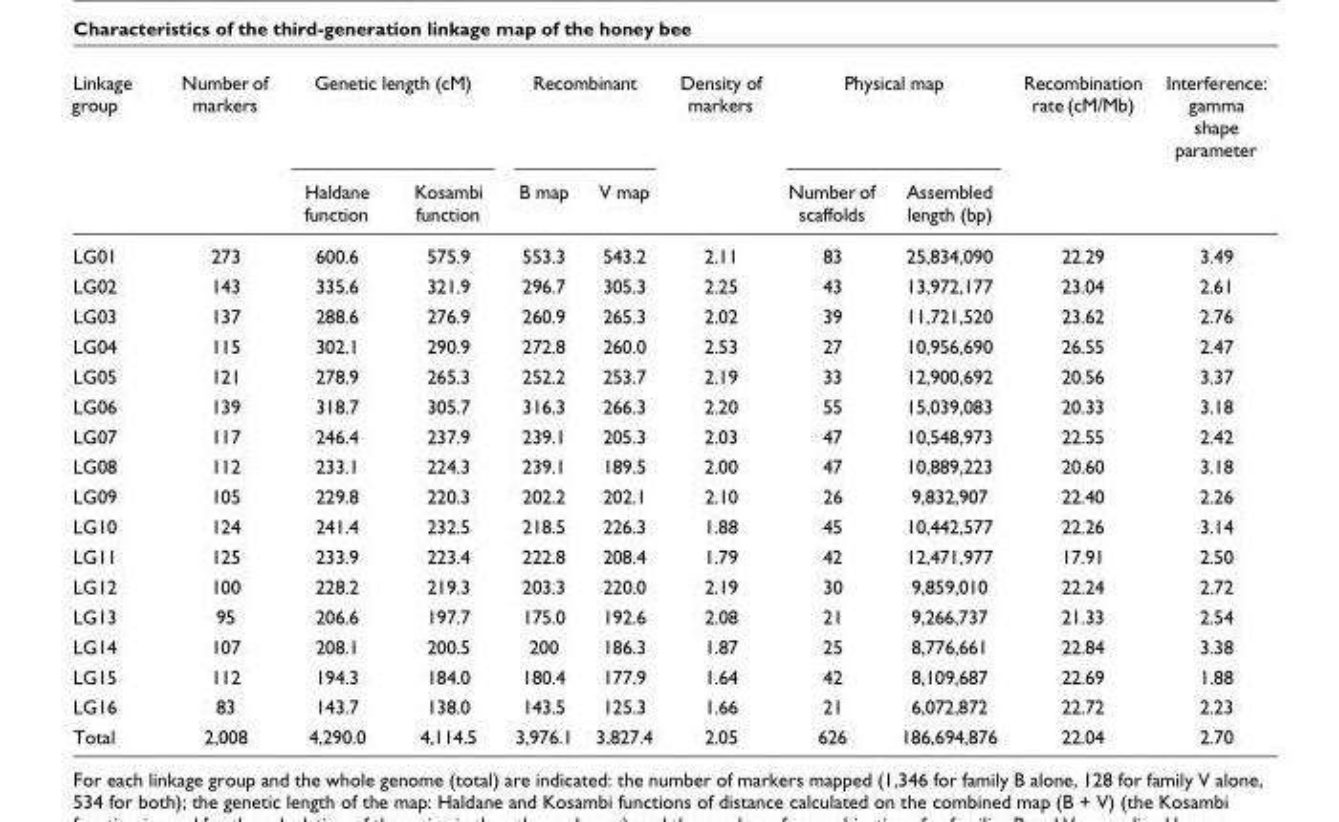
<table><thead><tr><td rowspan="2">Linkage group</td><td rowspan="2">Number of markers</td><td colspan="2">Genetic length (cM)</td><td colspan="2">Recombinant</td><td rowspan="2">Density of markers</td><td colspan="2">Physical map</td><td rowspan="2">Recombination rate (cM/Mb)</td><td rowspan="2">Interference: gamma shape parameter</td></tr><tr><td>Haldane function</td><td>Kosambi function</td><td>B map</td><td>V map</td><td>Number of scaffolds</td><td>Assembled length (bp)</td></tr></thead><tbody><tr><td>LG01</td><td>273</td><td>600.6</td><td>575.9</td><td>553.3</td><td>543.2</td><td>2.11</td><td>83</td><td>25,834,090</td><td>22.29</td><td>3.49</td></tr><tr><td>LG02</td><td>143</td><td>335.6</td><td>321.9</td><td>296.7</td><td>305.3</td><td>2.25</td><td>43</td><td>13,972,177</td><td>23.04</td><td>2.61</td></tr><tr><td>LG03</td><td>137</td><td>288.6</td><td>276.9</td><td>260.9</td><td>265.3</td><td>2.02</td><td>39</td><td>11,721,520</td><td>23.62</td><td>2.76</td></tr><tr><td>LG04</td><td>115</td><td>302.1</td><td>290.9</td><td>272.8</td><td>260.0</td><td>2.53</td><td>27</td><td>10,956,690</td><td>26.55</td><td>2.47</td></tr><tr><td>LG05</td><td>121</td><td>278.9</td><td>265.3</td><td>252.2</td><td>253.7</td><td>2.19</td><td>33</td><td>12,900,692</td><td>20.56</td><td>3.37</td></tr><tr><td>LG06</td><td>139</td><td>318.7</td><td>305.7</td><td>316.3</td><td>266.3</td><td>2.20</td><td>55</td><td>15,039,083</td><td>20.33</td><td>3.18</td></tr><tr><td>LG07</td><td>117</td><td>246.4</td><td>237.9</td><td>239.1</td><td>205.3</td><td>2.03</td><td>47</td><td>10,548,973</td><td>22.55</td><td>2.42</td></tr><tr><td>LG08</td><td>112</td><td>233.1</td><td>224.3</td><td>239.1</td><td>189.5</td><td>2.00</td><td>47</td><td>10,889,223</td><td>20.60</td><td>3.18</td></tr><tr><td>LG09</td><td>105</td><td>229.8</td><td>220.3</td><td>202.2</td><td>202.1</td><td>2.10</td><td>26</td><td>9,832,907</td><td>22.40</td><td>2.26</td></tr><tr><td>LG10</td><td>124</td><td>241.4</td><td>232.5</td><td>218.5</td><td>226.3</td><td>1.88</td><td>45</td><td>10,442,577</td><td>22.26</td><td>3.14</td></tr><tr><td>LG11</td><td>125</td><td>233.9</td><td>223.4</td><td>222.8</td><td>208.4</td><td>1.79</td><td>42</td><td>12,471,977</td><td>17.91</td><td>2.50</td></tr><tr><td>LG12</td><td>100</td><td>228.2</td><td>219.3</td><td>203.3</td><td>220.0</td><td>2.19</td><td>30</td><td>9,859,010</td><td>22.24</td><td>2.72</td></tr><tr><td>LG13</td><td>95</td><td>206.6</td><td>197.7</td><td>175.0</td><td>192.6</td><td>2.08</td><td>21</td><td>9,266,737</td><td>21.33</td><td>2.54</td></tr><tr><td>LG14</td><td>107</td><td>208.1</td><td>200.5</td><td>200</td><td>186.3</td><td>1.87</td><td>25</td><td>8,776,661</td><td>22.84</td><td>3.38</td></tr><tr><td>LG15</td><td>112</td><td>194.3</td><td>184.0</td><td>180.4</td><td>177.9</td><td>1.64</td><td>42</td><td>8,109,687</td><td>22.69</td><td>1.88</td></tr><tr><td>LG16</td><td>83</td><td>143.7</td><td>138.0</td><td>143.5</td><td>125.3</td><td>1.66</td><td>21</td><td>6,072,872</td><td>22.72</td><td>2.23</td></tr><tr><td>Total</td><td>2,008</td><td>4,290.0</td><td>4,114.5</td><td>3,976.1</td><td>3,827.4</td><td>2.05</td><td>626</td><td>186,694,876</td><td>22.04</td><td>2.70</td></tr></tbody></table>